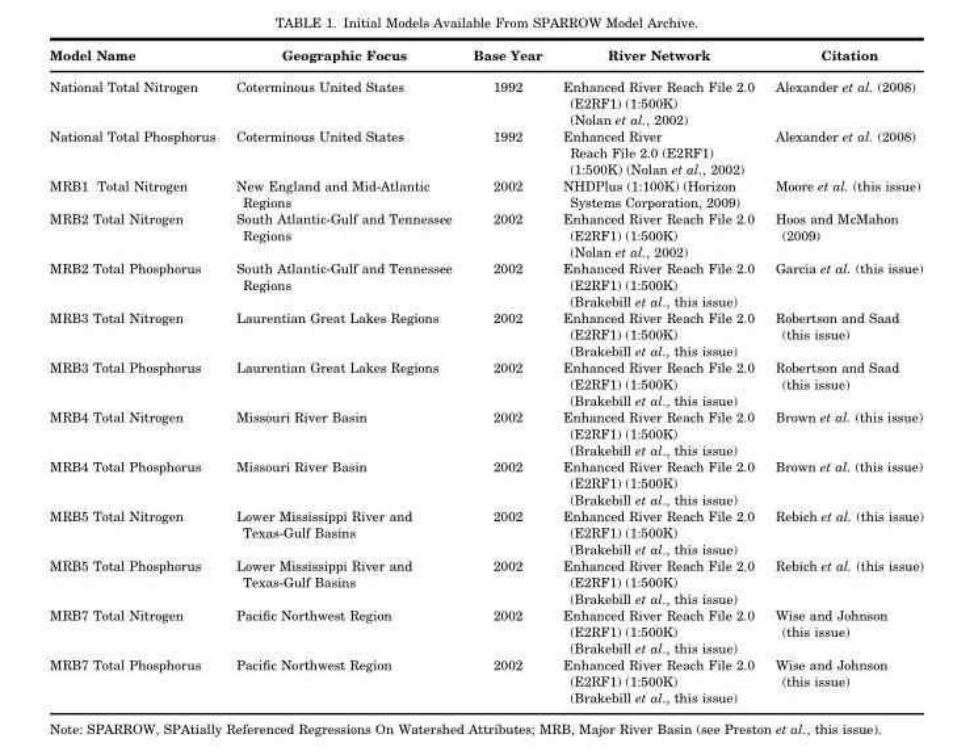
<table><thead><tr><td>Model Name</td><td>Geographic Focus</td><td>Base Year</td><td>River Network</td><td>Citation</td></tr></thead><tbody><tr><td>National Total Nitrogen</td><td>Coterminous United States</td><td>1992</td><td>Enhanced River Reach File 2.0 (E2RF1) (1:500K) (Nolan et al., 2002)</td><td>Alexander et al. (2008)</td></tr><tr><td>National Total Phosphorus</td><td>Coterminous United States</td><td>1992</td><td>Enhanced River Reach File 2.0 (E2RF1) (1:500K) (Nolan et al., 2002)</td><td>Alexander et al. (2008)</td></tr><tr><td>MRB1 Total Nitrogen</td><td>New England and Mid-Atlantic Regions</td><td>2002</td><td>NHDPlus (1:100K) (Horizon Systems Corporation, 2009)</td><td>Moore et al. (this issue)</td></tr><tr><td>MRB2 Total Nitrogen</td><td>South Atlantic-Gulf and Tennessee Regions</td><td>2002</td><td>Enhanced River Reach File 2.0 (E2RF1) (1:500K) (Nolan et al., 2002)</td><td>Hoos and McMahon (2009)</td></tr><tr><td>MRB2 Total Phosphorus</td><td>South Atlantic-Gulf and Tennessee Regions</td><td>2002</td><td>Enhanced River Reach File 2.0 (E2RF1) (1:500K) (Brakebill et al., this issue)</td><td>Garcia et al. (this issue)</td></tr><tr><td>MRB3 Total Nitrogen</td><td>Laurentian Great Lakes Regions</td><td>2002</td><td>Enhanced River Reach File 2.0 (E2RF1) (1:500K) (Brakebill et al., this issue)</td><td>Robertson and Saad (this issue)</td></tr><tr><td>MRB3 Total Phosphorus</td><td>Laurentian Great Lakes Regions</td><td>2002</td><td>Enhanced River Reach File 2.0 (E2RF1) (1:500K) (Brakebill et al., this issue)</td><td>Robertson and Saad (this issue)</td></tr><tr><td>MRB4 Total Nitrogen</td><td>Missouri River Basin</td><td>2002</td><td>Enhanced River Reach File 2.0 (E2RF1) (1:500K) (Brakebill et al., this issue)</td><td>Brown et al. (this issue)</td></tr><tr><td>MRB4 Total Phosphorus</td><td>Missouri River Basin</td><td>2002</td><td>Enhanced River Reach File 2.0 (E2RF1) (1:500K) (Brakebill et al., this issue)</td><td>Brown et al. (this issue)</td></tr><tr><td>MRB5 Total Nitrogen</td><td>Lower Mississippi River and Texas-Gulf Basins</td><td>2002</td><td>Enhanced River Reach File 2.0 (E2RF1) (1:500K) (Brakebill et al., this issue)</td><td>Rebich et al. (this issue)</td></tr><tr><td>MRB5 Total Phosphorus</td><td>Lower Mississippi River and Texas-Gulf Basins</td><td>2002</td><td>Enhanced River Reach File 2.0 (E2RF1) (1:500K) (Brakebill et al., this issue)</td><td>Rebich et al. (this issue)</td></tr><tr><td>MRB7 Total Nitrogen</td><td>Pacific Northwest Region</td><td>2002</td><td>Enhanced River Reach File 2.0 (E2RF1) (1:500K) (Brakebill et al., this issue)</td><td>Wise and Johnson (this issue)</td></tr><tr><td>MRB7 Total Phosphorus</td><td>Pacific Northwest Region</td><td>2002</td><td>Enhanced River Reach File 2.0 (E2RF1) (1:500K) (Brakebill et al., this issue)</td><td>Wise and Johnson (this issue)</td></tr></tbody></table>